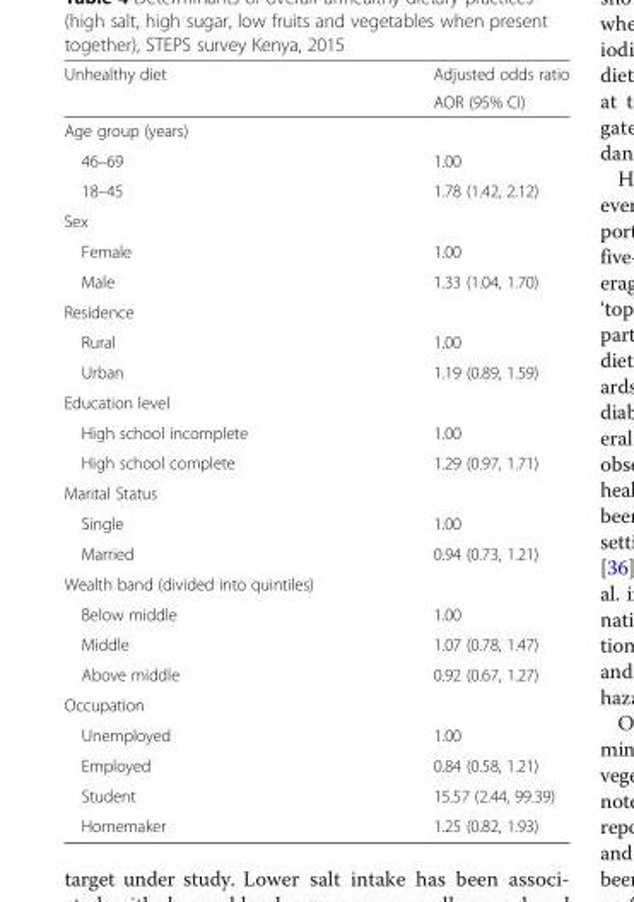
<table><thead><tr><td rowspan="2">Unhealthy diet</td><td rowspan="2">Adjusted odds ratio AOR (95% CI)</td></tr><tr></tr></thead><tbody><tr><td colspan="2">Age group (years)</td></tr><tr><td>46–69</td><td>1.00</td></tr><tr><td>18–45</td><td>1.78 (1.42, 2.12)</td></tr><tr><td colspan="2">Sex</td></tr><tr><td>Female</td><td>1.00</td></tr><tr><td>Male</td><td>1.33 (1.04, 1.70)</td></tr><tr><td colspan="2">Residence</td></tr><tr><td>Rural</td><td>1.00</td></tr><tr><td>Urban</td><td>1.19 (0.89, 1.59)</td></tr><tr><td colspan="2">Education level</td></tr><tr><td>High school incomplete</td><td>1.00</td></tr><tr><td>High school complete</td><td>1.29 (0.97, 1.71)</td></tr><tr><td colspan="2">Marital Status</td></tr><tr><td>Single</td><td>1.00</td></tr><tr><td>Married</td><td>0.94 (0.73, 1.21)</td></tr><tr><td colspan="2">Wealth band (divided into quintiles)</td></tr><tr><td>Below middle</td><td>1.00</td></tr><tr><td>Middle</td><td>1.07 (0.78, 1.47)</td></tr><tr><td>Above middle</td><td>0.92 (0.67, 1.27)</td></tr><tr><td colspan="2">Occupation</td></tr><tr><td>Unemployed</td><td>1.00</td></tr><tr><td>Employed</td><td>0.84 (0.58, 1.21)</td></tr><tr><td>Student</td><td>15.57 (2.44, 99.39)</td></tr><tr><td>Homemaker</td><td>1.25 (0.82, 1.93)</td></tr></tbody></table>